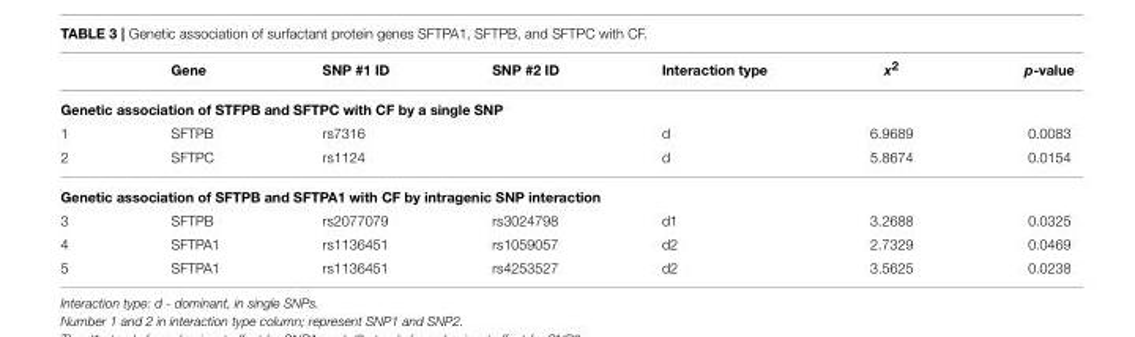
<table><thead><tr><td></td><td>Gene</td><td>SNP #1 ID</td><td>SNP #2 ID</td><td>Interaction type</td><td>x<sup>2</sup></td><td>p-value</td></tr></thead><tbody><tr><td colspan="7">Genetic association of STFPB and SFTPC with CF by a single SNP</td></tr><tr><td>1</td><td>SFTPB</td><td>rs7316</td><td></td><td>d</td><td>6.9689</td><td>0.0083</td></tr><tr><td>2</td><td>SFTPC</td><td>rs1124</td><td></td><td>d</td><td>5.8674</td><td>0.0154</td></tr><tr><td colspan="7">Genetic association of SFTPB and SFTPA1 with CF by intragenic SNP interaction</td></tr><tr><td>3</td><td>SFTPB</td><td>rs2077079</td><td>rs3024798</td><td>d1</td><td>3.2688</td><td>0.0325</td></tr><tr><td>4</td><td>SFTPA1</td><td>rs1136451</td><td>rs1059057</td><td>d2</td><td>2.7329</td><td>0.0469</td></tr><tr><td>5</td><td>SFTPA1</td><td>rs1136451</td><td>rs4253527</td><td>d2</td><td>3.5625</td><td>0.0238</td></tr></tbody></table>